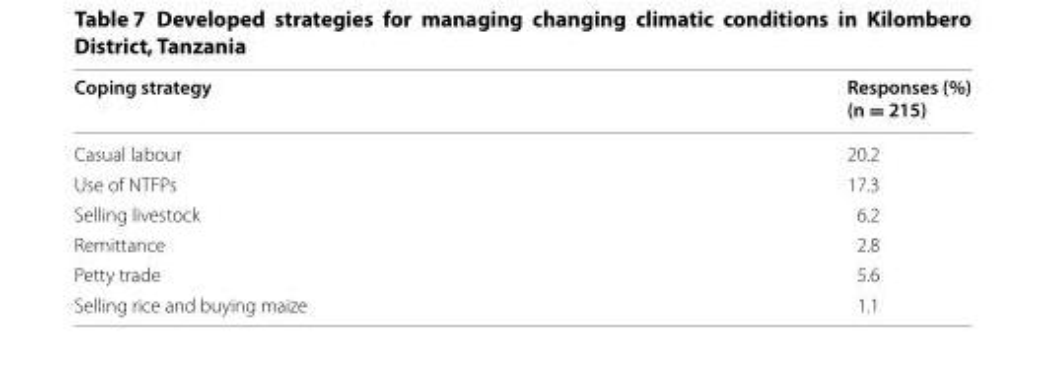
<table><thead><tr><td>Coping strategy</td><td>Responses (%) (n = 215)</td></tr></thead><tbody><tr><td>Casual labour</td><td>20.2</td></tr><tr><td>Use of NTFPs</td><td>17.3</td></tr><tr><td>Selling livestock</td><td>6.2</td></tr><tr><td>Remittance</td><td>2.8</td></tr><tr><td>Petty trade</td><td>5.6</td></tr><tr><td>Selling rice and buying maize</td><td>1.1</td></tr></tbody></table>